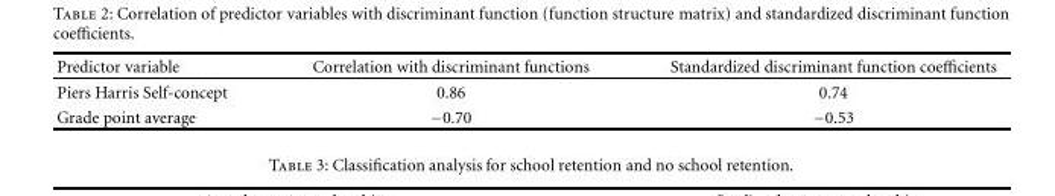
<table><thead><tr><td>Predictor variable</td><td>Correlation with discriminant functions</td><td>Standardized discriminant function coefficients</td></tr></thead><tbody><tr><td>Piers Harris Self-concept</td><td>0.86</td><td>0.74</td></tr><tr><td>Grade point average</td><td>−0.70</td><td>−0.53</td></tr></tbody></table>